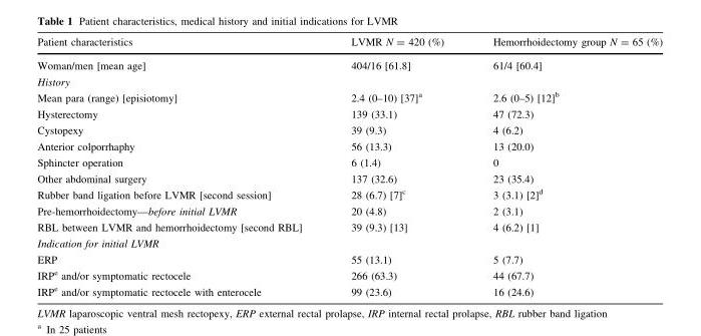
<table><thead><tr><td>Patient characteristics</td><td>LVMR N = 420 (%)</td><td>Hemorrhoidectomy group N = 65 (%)</td></tr></thead><tbody><tr><td>Woman/men [mean age]</td><td>404/16 [61.8]</td><td>61/4 [60.4]</td></tr><tr><td colspan="3">History</td></tr><tr><td>Mean para (range) [episiotomy]</td><td>2.4 (0–10) [37]<sup>a</sup></td><td>2.6 (0–5) [12]<sup>b</sup></td></tr><tr><td>Hysterectomy</td><td>139 (33.1)</td><td>47 (72.3)</td></tr><tr><td>Cystopexy</td><td>39 (9.3)</td><td>4 (6.2)</td></tr><tr><td>Anterior colporrhaphy</td><td>56 (13.3)</td><td>13 (20.0)</td></tr><tr><td>Sphincter operation</td><td>6 (1.4)</td><td>0</td></tr><tr><td>Other abdominal surgery</td><td>137 (32.6)</td><td>23 (35.4)</td></tr><tr><td>Rubber band ligation before LVMR [second session]</td><td>28 (6.7) [7]<sup>c</sup></td><td>3 (3.1) [2]<sup>d</sup></td></tr><tr><td>Pre-hemorrhoidectomy—before initial LVMR</td><td>20 (4.8)</td><td>2 (3.1)</td></tr><tr><td>RBL between LVMR and hemorrhoidectomy [second RBL]</td><td>39 (9.3) [13]</td><td>4 (6.2) [1]</td></tr><tr><td colspan="3">Indication for initial LVMR</td></tr><tr><td>ERP</td><td>55 (13.1)</td><td>5 (7.7)</td></tr><tr><td>IRP<sup>e</sup> and/or symptomatic rectocele</td><td>266 (63.3)</td><td>44 (67.7)</td></tr><tr><td>IRP<sup>e</sup> and/or symptomatic rectocele with enterocele</td><td>99 (23.6)</td><td>16 (24.6)</td></tr></tbody></table>